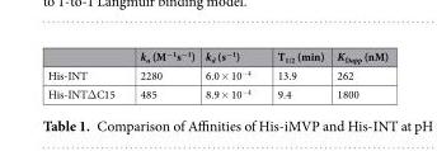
<table><thead><tr><td></td><td>k<sub>a</sub> (M<sup>-1</sup>s<sup>-1</sup>)</td><td>k<sub>d</sub> (s<sup>-1</sup>)</td><td>T<sub>1/2</sub> (min)</td><td>K<sub>Dapp</sub> (nM)</td></tr></thead><tbody><tr><td>His-INT</td><td>2280</td><td>6.0 × 10<sup>−4</sup></td><td>13.9</td><td>262</td></tr><tr><td>His-INTΔC15</td><td>485</td><td>8.9 × 10<sup>−4</sup></td><td>9.4</td><td>1800</td></tr></tbody></table>